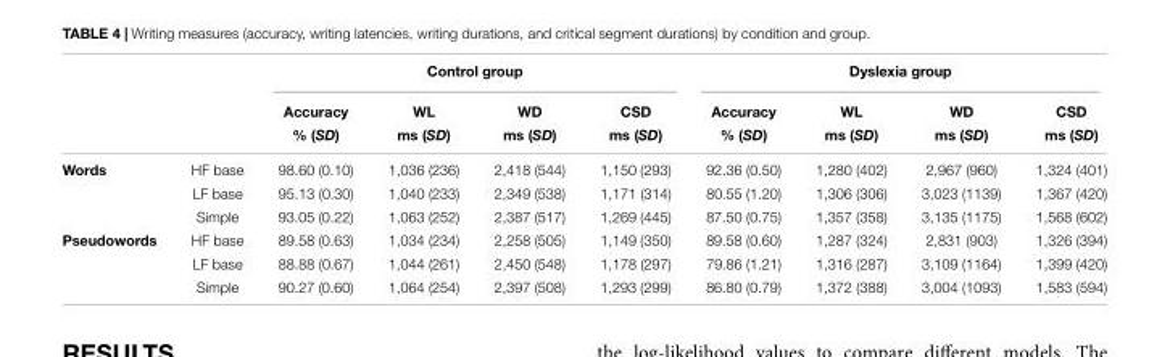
<table><thead><tr><td rowspan="3"></td><td rowspan="3"></td><td colspan="4">Control group</td><td colspan="4">Dyslexia group</td></tr><tr><td rowspan="2">Accuracy % (SD)</td><td rowspan="2">WL ms (SD)</td><td rowspan="2">WD ms (SD)</td><td rowspan="2">CSD ms (SD)</td><td rowspan="2">Accuracy % (SD)</td><td rowspan="2">WL ms (SD)</td><td rowspan="2">WD ms (SD)</td><td rowspan="2">CSD ms (SD)</td></tr><tr></tr></thead><tbody><tr><td rowspan="3">Words</td><td>HF base</td><td>98.60 (0.10)</td><td>1,036 (236)</td><td>2,418 (544)</td><td>1,150 (293)</td><td>92.36 (0.50)</td><td>1,280 (402)</td><td>2,967 (960)</td><td>1,324 (401)</td></tr><tr><td>LF base</td><td>95.13 (0.30)</td><td>1,040 (233)</td><td>2,349 (538)</td><td>1,171 (314)</td><td>80.55 (1.20)</td><td>1,306 (306)</td><td>3,023 (1139)</td><td>1,367 (420)</td></tr><tr><td>Simple</td><td>93.05 (0.22)</td><td>1,063 (252)</td><td>2,387 (517)</td><td>1,269 (445)</td><td>87.50 (0.75)</td><td>1,357 (358)</td><td>3,135 (1175)</td><td>1,568 (602)</td></tr><tr><td rowspan="3">Pseudowords</td><td>HF base</td><td>89.58 (0.63)</td><td>1,034 (234)</td><td>2,258 (505)</td><td>1,149 (350)</td><td>89.58 (0.60)</td><td>1,287 (324)</td><td>2,831 (903)</td><td>1,326 (394)</td></tr><tr><td>LF base</td><td>88.88 (0.67)</td><td>1,044 (261)</td><td>2,450 (548)</td><td>1,178 (297)</td><td>79.86 (1.21)</td><td>1,316 (287)</td><td>3,109 (1164)</td><td>1,399 (420)</td></tr><tr><td>Simple</td><td>90.27 (0.60)</td><td>1,064 (254)</td><td>2,397 (508)</td><td>1,293 (299)</td><td>86.80 (0.79)</td><td>1,372 (388)</td><td>3,004 (1093)</td><td>1,583 (594)</td></tr></tbody></table>